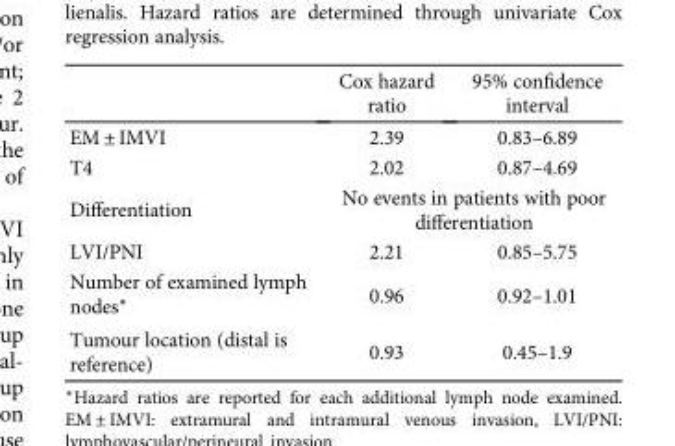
<table><thead><tr><td></td><td>Cox hazard ratio</td><td>95% confidence interval</td></tr></thead><tbody><tr><td>EM ± IMVI</td><td>2.39</td><td>0.83–6.89</td></tr><tr><td>T4</td><td>2.02</td><td>0.87–4.69</td></tr><tr><td>Differentiation</td><td colspan="2">No events in patients with poor differentiation</td></tr><tr><td>LVI/PNI</td><td>2.21</td><td>0.85–5.75</td></tr><tr><td>Number of examined lymph nodes∗</td><td>0.96</td><td>0.92–1.01</td></tr><tr><td>Tumour location (distal is reference)</td><td>0.93</td><td>0.45–1.9</td></tr></tbody></table>